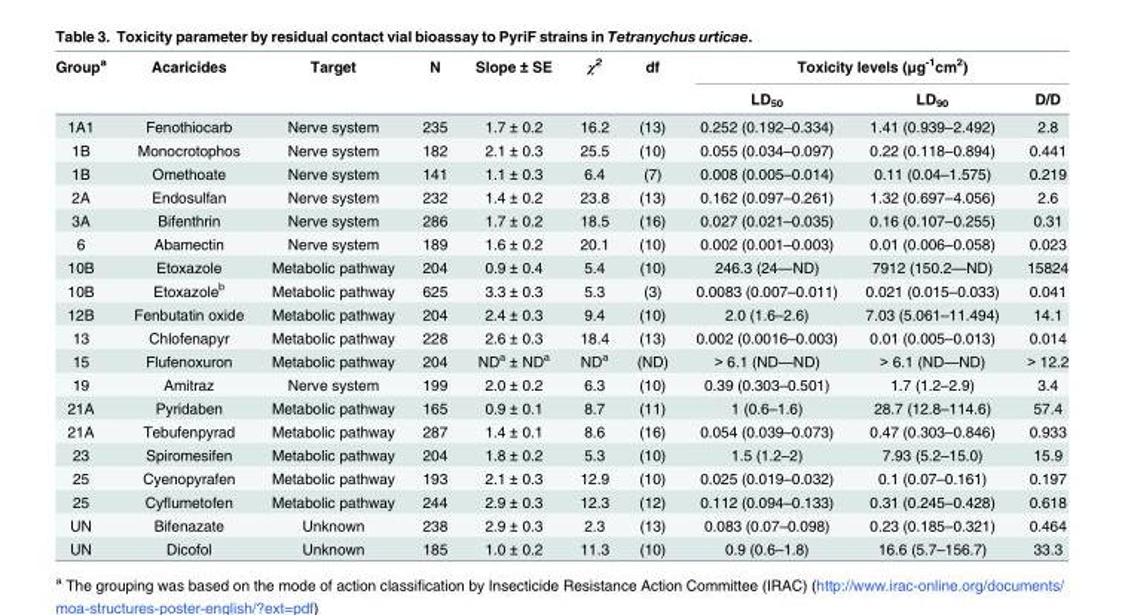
<table><thead><tr><td rowspan="2">Group<sup>a</sup></td><td rowspan="2">Acaricides</td><td rowspan="2">Target</td><td rowspan="2">N</td><td rowspan="2">Slope ± SE</td><td rowspan="2">χ<sup>2</sup></td><td rowspan="2">df</td><td colspan="3">Toxicity levels (μg<sup>-1</sup>cm<sup>2</sup>)</td></tr><tr><td>LD<sub>50</sub></td><td>LD<sub>90</sub></td><td>D/D</td></tr></thead><tbody><tr><td>1A1</td><td>Fenothiocarb</td><td>Nerve system</td><td>235</td><td>1.7 ± 0.2</td><td>16.2</td><td>(13)</td><td>0.252 (0.192–0.334)</td><td>1.41 (0.939–2.492)</td><td>2.8</td></tr><tr><td>1B</td><td>Monocrotophos</td><td>Nerve system</td><td>182</td><td>2.1 ± 0.3</td><td>25.5</td><td>(10)</td><td>0.055 (0.034–0.097)</td><td>0.22 (0.118–0.894)</td><td>0.441</td></tr><tr><td>1B</td><td>Omethoate</td><td>Nerve system</td><td>141</td><td>1.1 ± 0.3</td><td>6.4</td><td>(7)</td><td>0.008 (0.005–0.014)</td><td>0.11 (0.04–1.575)</td><td>0.219</td></tr><tr><td>2A</td><td>Endosulfan</td><td>Nerve system</td><td>232</td><td>1.4 ± 0.2</td><td>23.8</td><td>(13)</td><td>0.162 (0.097–0.261)</td><td>1.32 (0.697–4.056)</td><td>2.6</td></tr><tr><td>3A</td><td>Bifenthrin</td><td>Nerve system</td><td>286</td><td>1.7 ± 0.2</td><td>18.5</td><td>(16)</td><td>0.027 (0.021–0.035)</td><td>0.16 (0.107–0.255)</td><td>0.31</td></tr><tr><td>6</td><td>Abamectin</td><td>Nerve system</td><td>189</td><td>1.6 ± 0.2</td><td>20.1</td><td>(10)</td><td>0.002 (0.001–0.003)</td><td>0.01 (0.006–0.058)</td><td>0.023</td></tr><tr><td>10B</td><td>Etoxazole</td><td>Metabolic pathway</td><td>204</td><td>0.9 ± 0.4</td><td>5.4</td><td>(10)</td><td>246.3 (24—ND)</td><td>7912 (150.2—ND)</td><td>15824</td></tr><tr><td>10B</td><td>Etoxazole<sup>b</sup></td><td>Metabolic pathway</td><td>625</td><td>3.3 ± 0.3</td><td>5.3</td><td>(3)</td><td>0.0083 (0.007–0.011)</td><td>0.021 (0.015–0.033)</td><td>0.041</td></tr><tr><td>12B</td><td>Fenbutatin oxide</td><td>Metabolic pathway</td><td>204</td><td>2.4 ± 0.3</td><td>9.4</td><td>(10)</td><td>2.0 (1.6–2.6)</td><td>7.03 (5.061–11.494)</td><td>14.1</td></tr><tr><td>13</td><td>Chlofenapyr</td><td>Metabolic pathway</td><td>228</td><td>2.6 ± 0.3</td><td>18.4</td><td>(13)</td><td>0.002 (0.0016–0.003)</td><td>0.01 (0.005–0.013)</td><td>0.014</td></tr><tr><td>15</td><td>Flufenoxuron</td><td>Metabolic pathway</td><td>204</td><td>ND<sup>a</sup> ± ND<sup>a</sup></td><td>ND<sup>a</sup></td><td>(ND)</td><td>&gt; 6.1 (ND—ND)</td><td>&gt; 6.1 (ND—ND)</td><td>&gt; 12.2</td></tr><tr><td>19</td><td>Amitraz</td><td>Nerve system</td><td>199</td><td>2.0 ± 0.2</td><td>6.3</td><td>(10)</td><td>0.39 (0.303–0.501)</td><td>1.7 (1.2–2.9)</td><td>3.4</td></tr><tr><td>21A</td><td>Pyridaben</td><td>Metabolic pathway</td><td>165</td><td>0.9 ± 0.1</td><td>8.7</td><td>(11)</td><td>1 (0.6–1.6)</td><td>28.7 (12.8–114.6)</td><td>57.4</td></tr><tr><td>21A</td><td>Tebufenpyrad</td><td>Metabolic pathway</td><td>287</td><td>1.4 ± 0.1</td><td>8.6</td><td>(16)</td><td>0.054 (0.039–0.073)</td><td>0.47 (0.303–0.846)</td><td>0.933</td></tr><tr><td>23</td><td>Spiromesifen</td><td>Metabolic pathway</td><td>204</td><td>1.8 ± 0.2</td><td>5.3</td><td>(10)</td><td>1.5 (1.2–2)</td><td>7.93 (5.2–15.0)</td><td>15.9</td></tr><tr><td>25</td><td>Cyenopyrafen</td><td>Metabolic pathway</td><td>193</td><td>2.1 ± 0.3</td><td>12.9</td><td>(10)</td><td>0.025 (0.019–0.032)</td><td>0.1 (0.07–0.161)</td><td>0.197</td></tr><tr><td>25</td><td>Cyflumetofen</td><td>Metabolic pathway</td><td>244</td><td>2.9 ± 0.3</td><td>12.3</td><td>(12)</td><td>0.112 (0.094–0.133)</td><td>0.31 (0.245–0.428)</td><td>0.618</td></tr><tr><td>UN</td><td>Bifenazate</td><td>Unknown</td><td>238</td><td>2.9 ± 0.3</td><td>2.3</td><td>(13)</td><td>0.083 (0.07–0.098)</td><td>0.23 (0.185–0.321)</td><td>0.464</td></tr><tr><td>UN</td><td>Dicofol</td><td>Unknown</td><td>185</td><td>1.0 ± 0.2</td><td>11.3</td><td>(10)</td><td>0.9 (0.6–1.8)</td><td>16.6 (5.7–156.7)</td><td>33.3</td></tr></tbody></table>